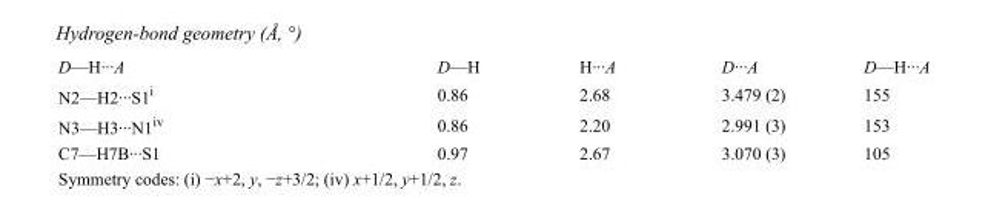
<table><tbody><tr><td>D—H···A</td><td>D—H</td><td>H···A</td><td>D···A</td><td>D—H···A</td></tr><tr><td>N2—H2···S1<sup>i</sup></td><td>0.86</td><td>2.68</td><td>3.479 (2)</td><td>155</td></tr><tr><td>N3—H3···N1<sup>iv</sup></td><td>0.86</td><td>2.20</td><td>2.991 (3)</td><td>153</td></tr><tr><td>C7—H7B···S1</td><td>0.97</td><td>2.67</td><td>3.070 (3)</td><td>105</td></tr></tbody></table>